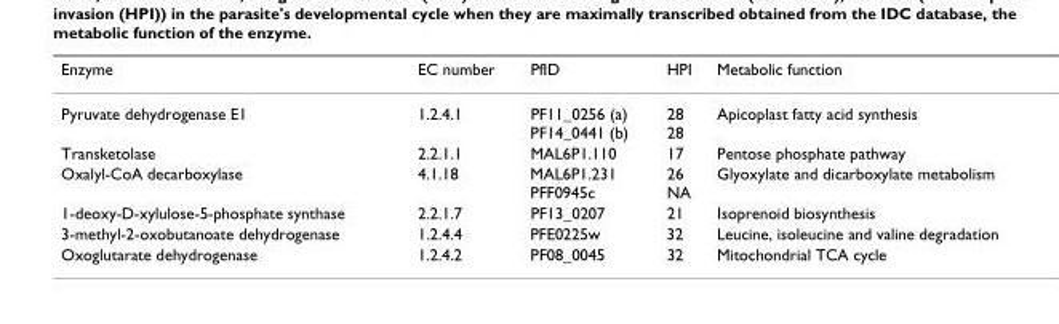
<table><thead><tr><td>Enzyme</td><td>EC number</td><td>PfID</td><td>HPI</td><td>Metabolic function</td></tr></thead><tbody><tr><td>Pyruvate dehydrogenase E1</td><td>1.2.4.1</td><td>PF11_0256 (a) PF14_0441 (b)</td><td>28 28</td><td>Apicoplast fatty acid synthesis</td></tr><tr><td>Transketolase</td><td>2.2.1.1</td><td>MAL6P1.110</td><td>17</td><td>Pentose phosphate pathway</td></tr><tr><td>Oxalyl-CoA decarboxylase</td><td>4.1.18</td><td>MAL6P1.231 PFF0945c</td><td>26 NA</td><td>Glyoxylate and dicarboxylate metabolism</td></tr><tr><td>1-deoxy-D-xylulose-5-phosphate synthase</td><td>2.2.1.7</td><td>PF13_0207</td><td>21</td><td>Isoprenoid biosynthesis</td></tr><tr><td>3-methyl-2-oxobutanoate dehydrogenase</td><td>1.2.4.4</td><td>PFE0225w</td><td>32</td><td>Leucine, isoleucine and valine degradation</td></tr><tr><td>Oxoglutarate dehydrogenase</td><td>1.2.4.2</td><td>PF08_0045</td><td>32</td><td>Mitochondrial TCA cycle</td></tr></tbody></table>